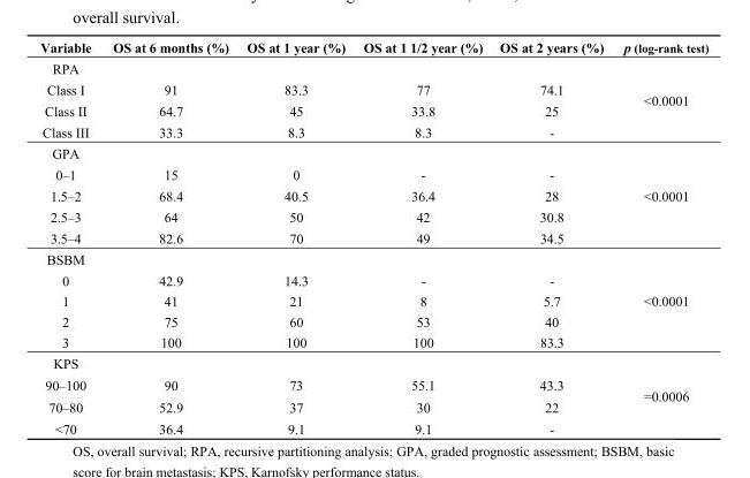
<table><thead><tr><td>Variable</td><td>OS at 6 months (%)</td><td>OS at 1 year (%)</td><td>OS at 1 1/2 year (%)</td><td>OS at 2 years (%)</td><td>p (log-rank test)</td></tr></thead><tbody><tr><td colspan="5">RPA</td><td rowspan="4">&lt;0.0001</td></tr><tr><td>Class I</td><td>91</td><td>83.3</td><td>77</td><td>74.1</td></tr><tr><td>Class II</td><td>64.7</td><td>45</td><td>33.8</td><td>25</td></tr><tr><td>Class III</td><td>33.3</td><td>8.3</td><td>8.3</td><td>-</td></tr><tr><td colspan="5">GPA</td><td rowspan="5">&lt;0.0001</td></tr><tr><td>0–1</td><td>15</td><td>0</td><td>-</td><td>-</td></tr><tr><td>1.5–2</td><td>68.4</td><td>40.5</td><td>36.4</td><td>28</td></tr><tr><td>2.5–3</td><td>64</td><td>50</td><td>42</td><td>30.8</td></tr><tr><td>3.5–4</td><td>82.6</td><td>70</td><td>49</td><td>34.5</td></tr><tr><td colspan="5">BSBM</td><td rowspan="5">&lt;0.0001</td></tr><tr><td>0</td><td>42.9</td><td>14.3</td><td>-</td><td>-</td></tr><tr><td>1</td><td>41</td><td>21</td><td>8</td><td>5.7</td></tr><tr><td>2</td><td>75</td><td>60</td><td>53</td><td>40</td></tr><tr><td>3</td><td>100</td><td>100</td><td>100</td><td>83.3</td></tr><tr><td colspan="5">KPS</td><td rowspan="4">=0.0006</td></tr><tr><td>90–100</td><td>90</td><td>73</td><td>55.1</td><td>43.3</td></tr><tr><td>70–80</td><td>52.9</td><td>37</td><td>30</td><td>22</td></tr><tr><td>&lt;70</td><td>36.4</td><td>9.1</td><td>9.1</td><td>-</td></tr></tbody></table>